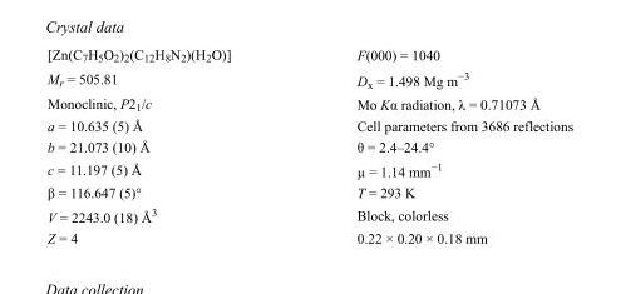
<table><tbody><tr><td>[Zn(C<sub>7</sub>H<sub>5</sub>O<sub>2</sub>)<sub>2</sub>(C<sub>12</sub>H<sub>8</sub>N<sub>2</sub>)(H<sub>2</sub>O)]</td><td>F(000) = 1040</td></tr><tr><td>M<sub>r</sub> = 505.81</td><td>D<sub>x</sub> = 1.498 Mg m<sup>−3</sup></td></tr><tr><td>Monoclinic, P2<sub>1</sub>/c</td><td>Mo Kα radiation, λ = 0.71073 Å</td></tr><tr><td>a = 10.635 (5) Å</td><td>Cell parameters from 3686 reflections</td></tr><tr><td>b = 21.073 (10) Å</td><td>θ = 2.4–24.4°</td></tr><tr><td>c = 11.197 (5) Å</td><td>µ = 1.14 mm<sup>−1</sup></td></tr><tr><td>β = 116.647 (5)°</td><td>T = 293 K</td></tr><tr><td>V = 2243.0 (18) Å<sup>3</sup></td><td>Block, colorless</td></tr><tr><td>Z = 4</td><td>0.22 × 0.20 × 0.18 mm</td></tr></tbody></table>